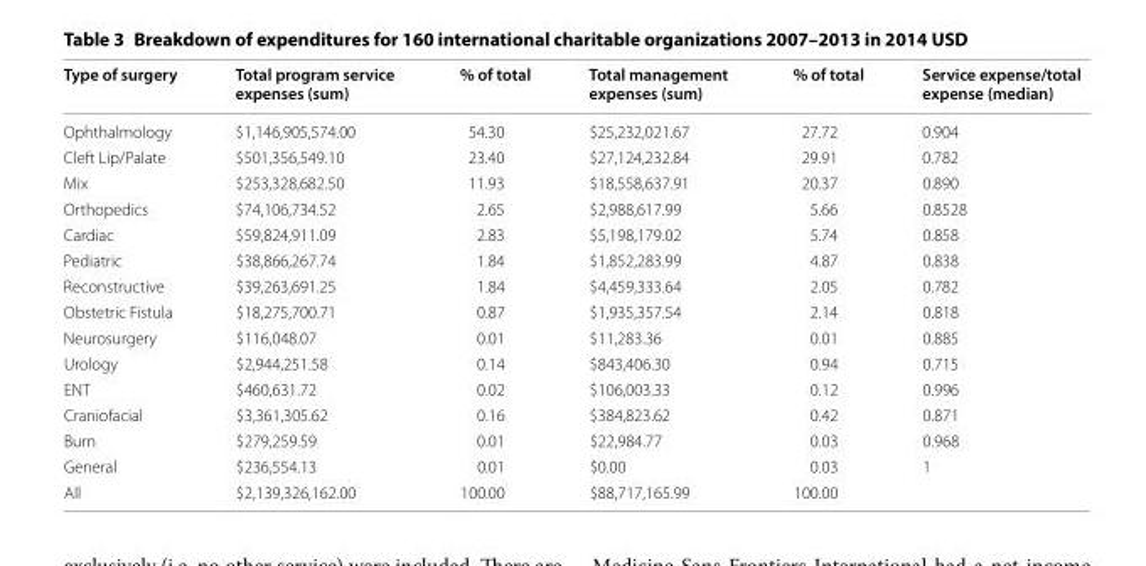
<table><thead><tr><td>Type of surgery</td><td>Total program service expenses (sum)</td><td>% of total</td><td>Total management expenses (sum)</td><td>% of total</td><td>Service expense/total expense (median)</td></tr></thead><tbody><tr><td>Ophthalmology</td><td>$1,146,905,574.00</td><td>54.30</td><td>$25,232,021.67</td><td>27.72</td><td>0.904</td></tr><tr><td>Cleft Lip/Palate</td><td>$501,356,549.10</td><td>23.40</td><td>$27,124,232.84</td><td>29.91</td><td>0.782</td></tr><tr><td>Mix</td><td>$253,328,682.50</td><td>11.93</td><td>$18,558,637.91</td><td>20.37</td><td>0.890</td></tr><tr><td>Orthopedics</td><td>$74,106,734.52</td><td>2.65</td><td>$2,988,617.99</td><td>5.66</td><td>0.8528</td></tr><tr><td>Cardiac</td><td>$59,824,911.09</td><td>2.83</td><td>$5,198,179.02</td><td>5.74</td><td>0.858</td></tr><tr><td>Pediatric</td><td>$38,866,267.74</td><td>1.84</td><td>$1,852,283.99</td><td>4.87</td><td>0.838</td></tr><tr><td>Reconstructive</td><td>$39,263,691.25</td><td>1.84</td><td>$4,459,333.64</td><td>2.05</td><td>0.782</td></tr><tr><td>Obstetric Fistula</td><td>$18,275,700.71</td><td>0.87</td><td>$1,935,357.54</td><td>2.14</td><td>0.818</td></tr><tr><td>Neurosurgery</td><td>$116,048.07</td><td>0.01</td><td>$11,283.36</td><td>0.01</td><td>0.885</td></tr><tr><td>Urology</td><td>$2,944,251.58</td><td>0.14</td><td>$843,406.30</td><td>0.94</td><td>0.715</td></tr><tr><td>ENT</td><td>$460,631.72</td><td>0.02</td><td>$106,003.33</td><td>0.12</td><td>0.996</td></tr><tr><td>Craniofacial</td><td>$3,361,305.62</td><td>0.16</td><td>$384,823.62</td><td>0.42</td><td>0.871</td></tr><tr><td>Burn</td><td>$279,259.59</td><td>0.01</td><td>$22,984.77</td><td>0.03</td><td>0.968</td></tr><tr><td>General</td><td>$236,554.13</td><td>0.01</td><td>$0.00</td><td>0.03</td><td>1</td></tr><tr><td>All</td><td>$2,139,326,162.00</td><td>100.00</td><td>$88,717,165.99</td><td>100.00</td><td></td></tr></tbody></table>